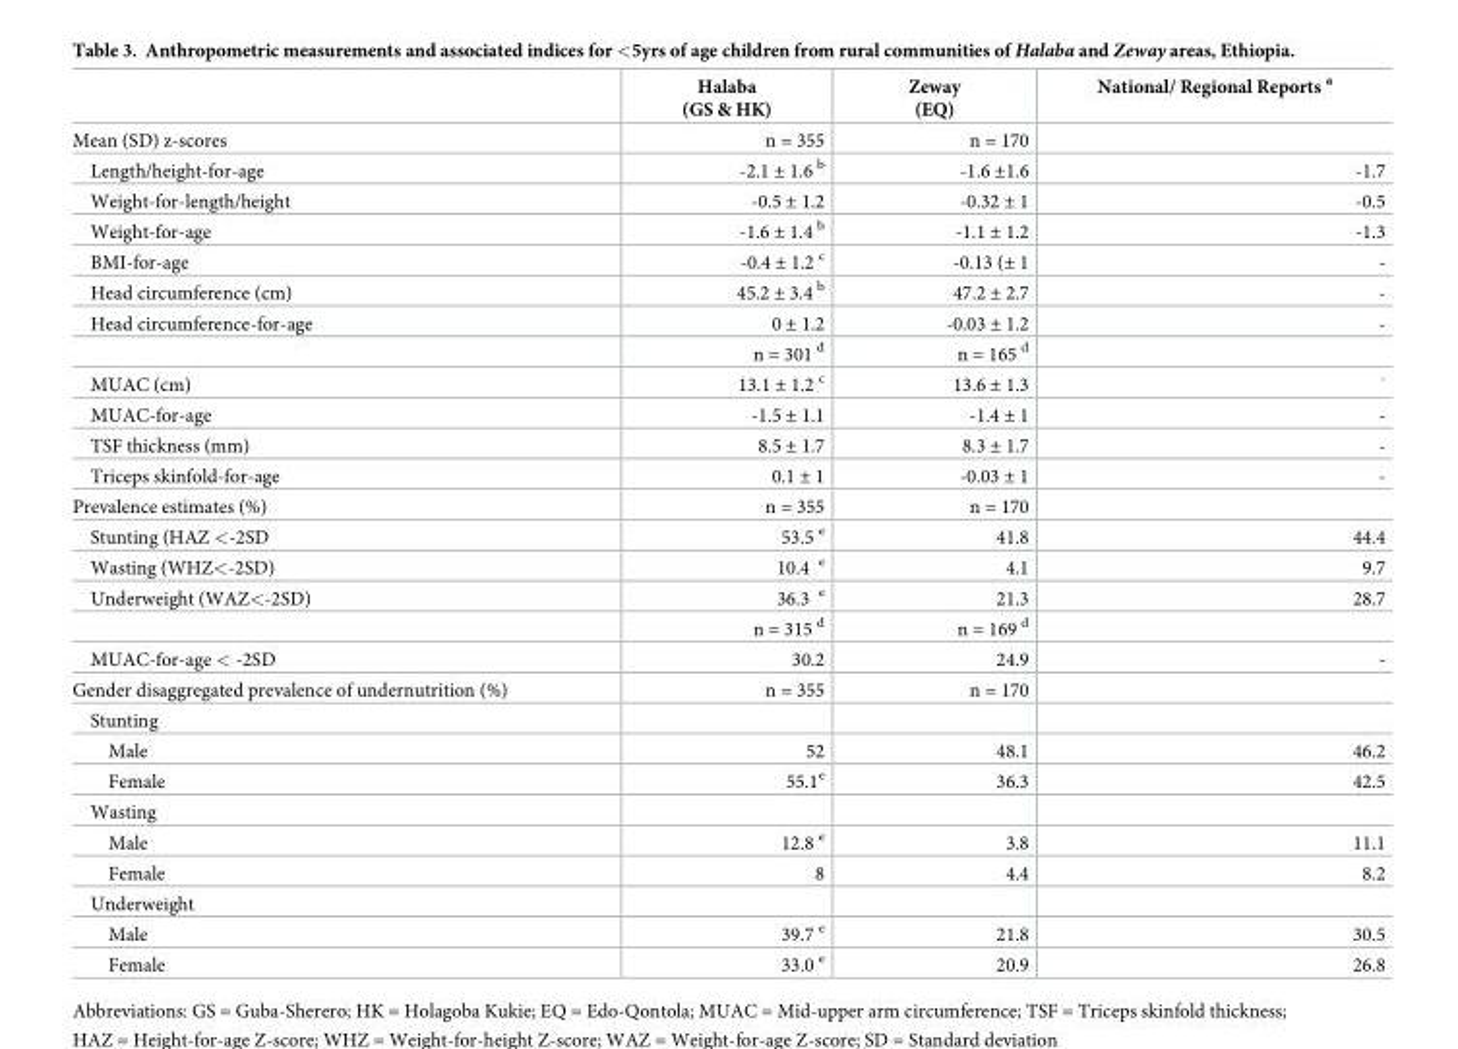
<table><thead><tr><td></td><td>Halaba (GS &amp; HK)</td><td>Zeway (EQ)</td><td>National/ Regional Reports <sup>a</sup></td></tr></thead><tbody><tr><td>Mean (SD) z-scores</td><td>n = 355</td><td>n = 170</td><td></td></tr><tr><td>Length/height-for-age</td><td>-2.1 ± 1.6 <sup>b</sup></td><td>-1.6 ±1.6</td><td>-1.7</td></tr><tr><td>Weight-for-length/height</td><td>-0.5 ± 1.2</td><td>-0.32 ± 1</td><td>-0.5</td></tr><tr><td>Weight-for-age</td><td>-1.6 ± 1.4 <sup>b</sup></td><td>-1.1 ± 1.2</td><td>-1.3</td></tr><tr><td>BMI-for-age</td><td>-0.4 ± 1.2 <sup>c</sup></td><td>-0.13 (± 1</td><td>-</td></tr><tr><td>Head circumference (cm)</td><td>45.2 ± 3.4 <sup>b</sup></td><td>47.2 ± 2.7</td><td>-</td></tr><tr><td rowspan="2">Head circumference-for-age</td><td>0 ± 1.2</td><td>-0.03 ± 1.2</td><td>-</td></tr><tr><td>n = 301 <sup>d</sup></td><td>n = 165 <sup>d</sup></td><td></td></tr><tr><td>MUAC (cm)</td><td>13.1 ± 1.2 <sup>c</sup></td><td>13.6 ± 1.3</td><td><sup>-</sup></td></tr><tr><td>MUAC-for-age</td><td>-1.5 ± 1.1</td><td>-1.4 ± 1</td><td>-</td></tr><tr><td>TSF thickness (mm)</td><td>8.5 ± 1.7</td><td>8.3 ± 1.7</td><td>-</td></tr><tr><td>Triceps skinfold-for-age</td><td>0.1 ± 1</td><td>-0.03 ± 1</td><td>-</td></tr><tr><td>Prevalence estimates (%)</td><td>n = 355</td><td>n = 170</td><td></td></tr><tr><td>Stunting (HAZ &lt;-2SD</td><td>53.5 <sup>e</sup></td><td>41.8</td><td>44.4</td></tr><tr><td>Wasting (WHZ&lt;-2SD)</td><td>10.4 <sup>e</sup></td><td>4.1</td><td>9.7</td></tr><tr><td rowspan="2">Underweight (WAZ&lt;-2SD)</td><td>36.3 <sup>e</sup></td><td>21.3</td><td>28.7</td></tr><tr><td>n = 315 <sup>d</sup></td><td>n = 169 <sup>d</sup></td><td></td></tr><tr><td>MUAC-for-age &lt; -2SD</td><td>30.2</td><td>24.9</td><td>-</td></tr><tr><td>Gender disaggregated prevalence of undernutrition (%)</td><td>n = 355</td><td>n = 170</td><td></td></tr><tr><td colspan="4">Stunting</td></tr><tr><td>Male</td><td>52</td><td>48.1</td><td>46.2</td></tr><tr><td>Female</td><td>55.1<sup>e</sup></td><td>36.3</td><td>42.5</td></tr><tr><td colspan="4">Wasting</td></tr><tr><td>Male</td><td>12.8 <sup>e</sup></td><td>3.8</td><td>11.1</td></tr><tr><td>Female</td><td>8</td><td>4.4</td><td>8.2</td></tr><tr><td colspan="4">Underweight</td></tr><tr><td>Male</td><td>39.7 <sup>e</sup></td><td>21.8</td><td>30.5</td></tr><tr><td>Female</td><td>33.0 <sup>e</sup></td><td>20.9</td><td>26.8</td></tr></tbody></table>